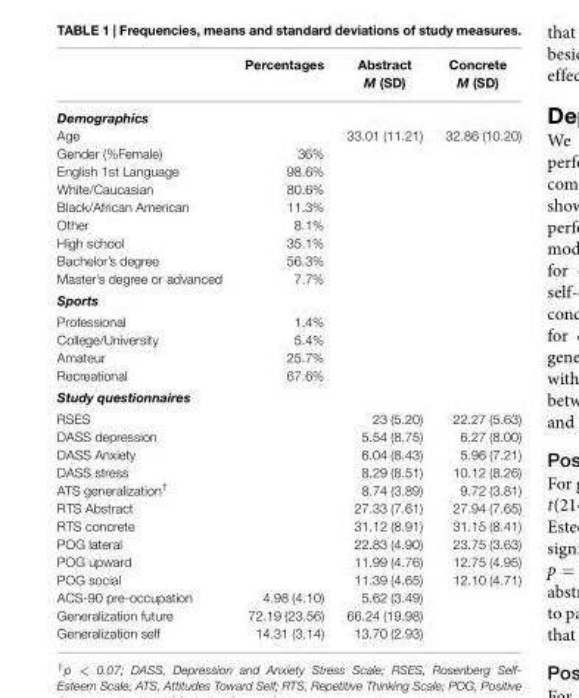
<table><thead><tr><td></td><td>Percentages</td><td>Abstract M (SD)</td><td>Concrete M (SD)</td></tr></thead><tbody><tr><td colspan="4">Demographics</td></tr><tr><td>Age</td><td></td><td>33.01 (11.21)</td><td>32.86 (10.20)</td></tr><tr><td>Gender (%Female)</td><td>36%</td><td></td><td></td></tr><tr><td>English 1st Language</td><td>98.6%</td><td></td><td></td></tr><tr><td>White/Caucasian</td><td>80.6%</td><td></td><td></td></tr><tr><td>Black/African American</td><td>11.3%</td><td></td><td></td></tr><tr><td>Other</td><td>8.1%</td><td></td><td></td></tr><tr><td>High school</td><td>35.1%</td><td></td><td></td></tr><tr><td>Bachelor’s degree</td><td>56.3%</td><td></td><td></td></tr><tr><td>Master’s degree or advanced</td><td>7.7%</td><td></td><td></td></tr><tr><td colspan="4">Sports</td></tr><tr><td>Professional</td><td>1.4%</td><td></td><td></td></tr><tr><td>College/University</td><td>5.4%</td><td></td><td></td></tr><tr><td>Amateur</td><td>25.7%</td><td></td><td></td></tr><tr><td>Recreational</td><td>67.6%</td><td></td><td></td></tr><tr><td colspan="4">Study questionnaires</td></tr><tr><td>RSES</td><td></td><td>23 (5.20)</td><td>22.27 (5.63)</td></tr><tr><td>DASS depression</td><td></td><td>5.54 (8.75)</td><td>6.27 (8.00)</td></tr><tr><td>DASS Anxiety</td><td></td><td>6.04 (8.43)</td><td>5.96 (7.21)</td></tr><tr><td>DASS stress</td><td></td><td>8.29 (8.51)</td><td>10.12 (8.26)</td></tr><tr><td>ATS generalization<sup>†</sup></td><td></td><td>8.74 (3.89)</td><td>9.72 (3.81)</td></tr><tr><td>RTS Abstract</td><td></td><td>27.33 (7.61)</td><td>27.94 (7.65)</td></tr><tr><td>RTS concrete</td><td></td><td>31.12 (8.91)</td><td>31.15 (8.41)</td></tr><tr><td>POG lateral</td><td></td><td>22.83 (4.90)</td><td>23.75 (3.63)</td></tr><tr><td>POG upward</td><td></td><td>11.99 (4.76)</td><td>12.75 (4.95)</td></tr><tr><td>POG social</td><td></td><td>11.39 (4.65)</td><td>12.10 (4.71)</td></tr><tr><td>ACS-90 pre-occupation</td><td>4.98 (4.10)</td><td>5.62 (3.49)</td><td></td></tr><tr><td>Generalization future</td><td>72.19 (23.56)</td><td>66.24 (19.98)</td><td></td></tr><tr><td>Generalization self</td><td>14.31 (3.14)</td><td>13.70 (2.93)</td><td></td></tr></tbody></table>